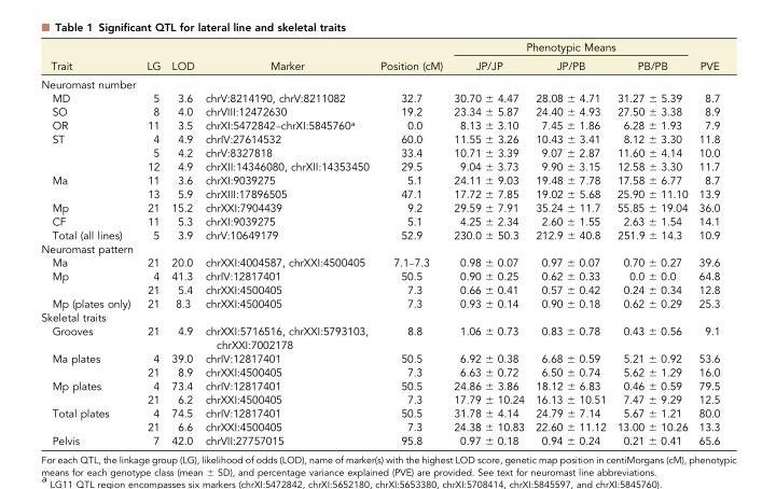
<table><thead><tr><td rowspan="2">Trait</td><td rowspan="2">LG</td><td rowspan="2">LOD</td><td rowspan="2">Marker</td><td rowspan="2">Position (cM)</td><td colspan="3">Phenotypic Means</td><td rowspan="2">PVE</td></tr><tr><td>JP/JP</td><td>JP/PB</td><td>PB/PB</td></tr></thead><tbody><tr><td colspan="9">Neuromast number</td></tr><tr><td>MD</td><td>5</td><td>3.6</td><td>chrV:8214190, chrV:8211082</td><td>32.7</td><td>30.70 ± 4.47</td><td>28.08 ± 4.71</td><td>31.27 ± 5.39</td><td>8.7</td></tr><tr><td>SO</td><td>8</td><td>4.0</td><td>chrVIII:12472630</td><td>19.2</td><td>23.34 ± 5.87</td><td>24.40 ± 4.93</td><td>27.50 ± 3.38</td><td>8.9</td></tr><tr><td>OR</td><td>11</td><td>3.5</td><td>chrXI:5472842–chrXI:5845760<sup>a</sup></td><td>0.0</td><td>8.13 ± 3.10</td><td>7.45 ± 1.86</td><td>6.28 ± 1.93</td><td>7.9</td></tr><tr><td rowspan="3">ST</td><td>4</td><td>4.9</td><td>chrIV:27614532</td><td>60.0</td><td>11.55 ± 3.26</td><td>10.43 ± 3.41</td><td>8.12 ± 3.30</td><td>11.8</td></tr><tr><td>5</td><td>4.2</td><td>chrV:8327818</td><td>33.4</td><td>10.71 ± 3.39</td><td>9.07 ± 2.87</td><td>11.60 ± 4.14</td><td>10.0</td></tr><tr><td>12</td><td>4.9</td><td>chrXII:14346080, chrXII:14353450</td><td>29.5</td><td>9.04 ± 3.73</td><td>9.90 ± 3.15</td><td>12.58 ± 3.30</td><td>11.7</td></tr><tr><td rowspan="2">Ma</td><td>11</td><td>3.6</td><td>chrXI:9039275</td><td>5.1</td><td>24.11 ± 9.03</td><td>19.48 ± 7.78</td><td>17.58 ± 6.77</td><td>8.7</td></tr><tr><td>13</td><td>5.9</td><td>chrXIII:17896505</td><td>47.1</td><td>17.72 ± 7.85</td><td>19.02 ± 5.68</td><td>25.90 ± 11.10</td><td>13.9</td></tr><tr><td>Mp</td><td>21</td><td>15.2</td><td>chrXXI:7904439</td><td>9.2</td><td>29.59 ± 7.91</td><td>35.24 ± 11.7</td><td>55.85 ± 19.04</td><td>36.0</td></tr><tr><td>CF</td><td>11</td><td>5.3</td><td>chrXI:9039275</td><td>5.1</td><td>4.25 ± 2.34</td><td>2.60 ± 1.55</td><td>2.63 ± 1.54</td><td>14.1</td></tr><tr><td>Total (all lines)</td><td>5</td><td>3.9</td><td>chrV:10649179</td><td>52.9</td><td>230.0 ± 50.3</td><td>212.9 ± 40.8</td><td>251.9 ± 14.3</td><td>10.9</td></tr><tr><td colspan="9">Neuromast pattern</td></tr><tr><td>Ma</td><td>21</td><td>20.0</td><td>chrXXI:4004587, chrXXI:4500405</td><td>7.1–7.3</td><td>0.98 ± 0.07</td><td>0.97 ± 0.07</td><td>0.70 ± 0.27</td><td>39.6</td></tr><tr><td rowspan="2">Mp</td><td>4</td><td>41.3</td><td>chrIV:12817401</td><td>50.5</td><td>0.90 ± 0.25</td><td>0.62 ± 0.33</td><td>0.0 ± 0.0</td><td>64.8</td></tr><tr><td>21</td><td>5.4</td><td>chrXXI:4500405</td><td>7.3</td><td>0.66 ± 0.41</td><td>0.57 ± 0.42</td><td>0.24 ± 0.34</td><td>12.8</td></tr><tr><td>Mp (plates only)</td><td>21</td><td>8.3</td><td>chrXXI:4500405</td><td>7.3</td><td>0.93 ± 0.14</td><td>0.90 ± 0.18</td><td>0.62 ± 0.29</td><td>25.3</td></tr><tr><td colspan="9">Skeletal traits</td></tr><tr><td>Grooves</td><td>21</td><td>4.9</td><td>chrXXI:5716516, chrXXI:5793103, chrXXI:7002178</td><td>8.8</td><td>1.06 ± 0.73</td><td>0.83 ± 0.78</td><td>0.43 ± 0.56</td><td>9.1</td></tr><tr><td rowspan="2">Ma plates</td><td>4</td><td>39.0</td><td>chrIV:12817401</td><td>50.5</td><td>6.92 ± 0.38</td><td>6.68 ± 0.59</td><td>5.21 ± 0.92</td><td>53.6</td></tr><tr><td>21</td><td>8.9</td><td>chrXXI:4500405</td><td>7.3</td><td>6.63 ± 0.72</td><td>6.50 ± 0.74</td><td>5.62 ± 1.29</td><td>16.0</td></tr><tr><td rowspan="2">Mp plates</td><td>4</td><td>73.4</td><td>chrIV:12817401</td><td>50.5</td><td>24.86 ± 3.86</td><td>18.12 ± 6.83</td><td>0.46 ± 0.59</td><td>79.5</td></tr><tr><td>21</td><td>6.2</td><td>chrXXI:4500405</td><td>7.3</td><td>17.79 ± 10.24</td><td>16.13 ± 10.51</td><td>7.47 ± 9.29</td><td>12.5</td></tr><tr><td rowspan="2">Total plates</td><td>4</td><td>74.5</td><td>chrIV:12817401</td><td>50.5</td><td>31.78 ± 4.14</td><td>24.79 ± 7.14</td><td>5.67 ± 1.21</td><td>80.0</td></tr><tr><td>21</td><td>6.6</td><td>chrXXI:4500405</td><td>7.3</td><td>24.38 ± 10.83</td><td>22.60 ± 11.12</td><td>13.00 ± 10.26</td><td>13.3</td></tr><tr><td>Pelvis</td><td>7</td><td>42.0</td><td>chrVII:27757015</td><td>95.8</td><td>0.97 ± 0.18</td><td>0.94 ± 0.24</td><td>0.21 ± 0.41</td><td>65.6</td></tr></tbody></table>